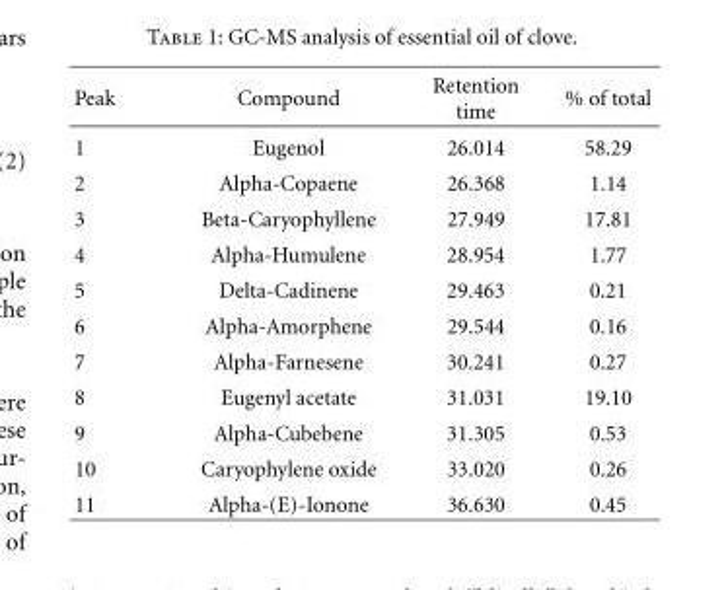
<table><thead><tr><td>Peak</td><td>Compound</td><td>Retention time</td><td>% of total</td></tr></thead><tbody><tr><td>1</td><td>Eugenol</td><td>26.014</td><td>58.29</td></tr><tr><td>2</td><td>Alpha-Copaene</td><td>26.368</td><td>1.14</td></tr><tr><td>3</td><td>Beta-Caryophyllene</td><td>27.949</td><td>17.81</td></tr><tr><td>4</td><td>Alpha-Humulene</td><td>28.954</td><td>1.77</td></tr><tr><td>5</td><td>Delta-Cadinene</td><td>29.463</td><td>0.21</td></tr><tr><td>6</td><td>Alpha-Amorphene</td><td>29.544</td><td>0.16</td></tr><tr><td>7</td><td>Alpha-Farnesene</td><td>30.241</td><td>0.27</td></tr><tr><td>8</td><td>Eugenyl acetate</td><td>31.031</td><td>19.10</td></tr><tr><td>9</td><td>Alpha-Cubebene</td><td>31.305</td><td>0.53</td></tr><tr><td>10</td><td>Caryophylene oxide</td><td>33.020</td><td>0.26</td></tr><tr><td>11</td><td>Alpha-(E)-Ionone</td><td>36.630</td><td>0.45</td></tr></tbody></table>